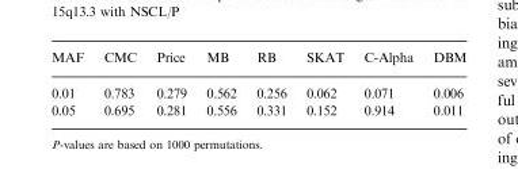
<table><thead><tr><td>MAF</td><td>CMC</td><td>Price</td><td>MB</td><td>RB</td><td>SKAT</td><td>C-Alpha</td><td>DBM</td></tr></thead><tbody><tr><td>0.01</td><td>0.783</td><td>0.279</td><td>0.562</td><td>0.256</td><td>0.062</td><td>0.071</td><td>0.006</td></tr><tr><td>0.05</td><td>0.695</td><td>0.281</td><td>0.556</td><td>0.331</td><td>0.152</td><td>0.914</td><td>0.011</td></tr></tbody></table>